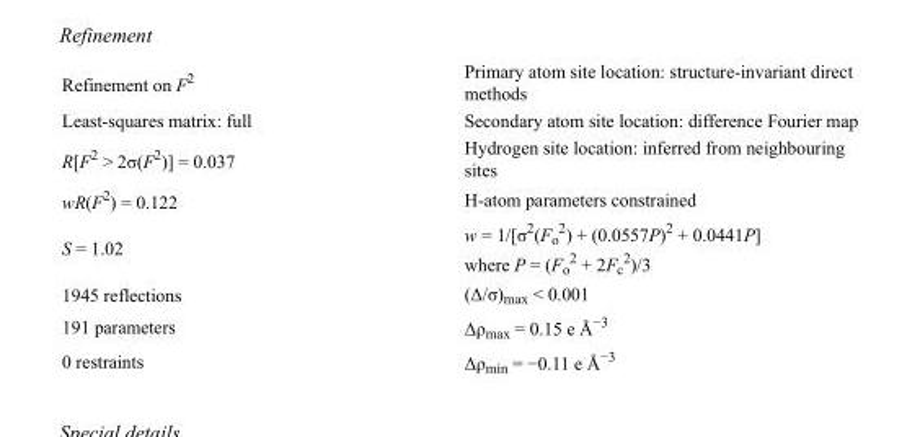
<table><tbody><tr><td>Refinement on F<sup>2</sup></td><td>Primary atom site location: structure-invariant direct methods</td></tr><tr><td>Least-squares matrix: full</td><td>Secondary atom site location: difference Fourier map</td></tr><tr><td>R[F<sup>2</sup> &gt; 2σ(F<sup>2</sup>)] = 0.037</td><td>Hydrogen site location: inferred from neighbouring sites</td></tr><tr><td>wR(F<sup>2</sup>) = 0.122</td><td>H-atom parameters constrained</td></tr><tr><td>S = 1.02</td><td>w = 1/[σ<sup>2</sup>(F<sub>o</sub> <sup>2</sup>) + (0.0557P)<sup>2</sup> + 0.0441P] where P = (F<sub>o</sub> <sup>2</sup> + 2F<sub>c</sub> <sup>2</sup>)/3</td></tr><tr><td>1945 reflections</td><td>(Δ/σ)<sub>max</sub> &lt; 0.001</td></tr><tr><td>191 parameters</td><td>Δρ<sub>max</sub> = 0.15 e Å<sup>−3</sup></td></tr><tr><td>0 restraints</td><td>Δρ<sub>min</sub> = −0.11 e Å<sup>−3</sup></td></tr></tbody></table>